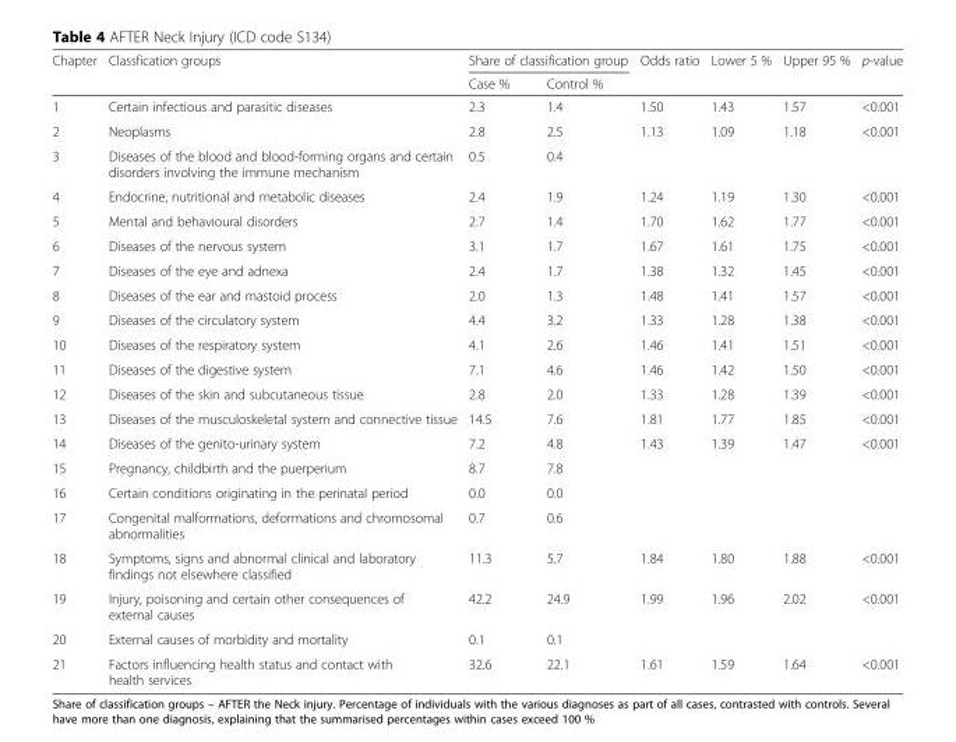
<table><thead><tr><td rowspan="2">Chapter</td><td rowspan="2">Classfication groups</td><td colspan="2">Share of classification group</td><td rowspan="2">Odds ratio</td><td rowspan="2">Lower 5 %</td><td rowspan="2">Upper 95 %</td><td rowspan="2">p-value</td></tr><tr><td>Case %</td><td>Control %</td></tr></thead><tbody><tr><td>1</td><td>Certain infectious and parasitic diseases</td><td>2.3</td><td>1.4</td><td>1.50</td><td>1.43</td><td>1.57</td><td>&lt;0.001</td></tr><tr><td>2</td><td>Neoplasms</td><td>2.8</td><td>2.5</td><td>1.13</td><td>1.09</td><td>1.18</td><td>&lt;0.001</td></tr><tr><td>3</td><td>Diseases of the blood and blood-forming organs and certain disorders involving the immune mechanism</td><td>0.5</td><td>0.4</td><td></td><td></td><td></td><td></td></tr><tr><td>4</td><td>Endocrine, nutritional and metabolic diseases</td><td>2.4</td><td>1.9</td><td>1.24</td><td>1.19</td><td>1.30</td><td>&lt;0.001</td></tr><tr><td>5</td><td>Mental and behavioural disorders</td><td>2.7</td><td>1.4</td><td>1.70</td><td>1.62</td><td>1.77</td><td>&lt;0.001</td></tr><tr><td>6</td><td>Diseases of the nervous system</td><td>3.1</td><td>1.7</td><td>1.67</td><td>1.61</td><td>1.75</td><td>&lt;0.001</td></tr><tr><td>7</td><td>Diseases of the eye and adnexa</td><td>2.4</td><td>1.7</td><td>1.38</td><td>1.32</td><td>1.45</td><td>&lt;0.001</td></tr><tr><td>8</td><td>Diseases of the ear and mastoid process</td><td>2.0</td><td>1.3</td><td>1.48</td><td>1.41</td><td>1.57</td><td>&lt;0.001</td></tr><tr><td>9</td><td>Diseases of the circulatory system</td><td>4.4</td><td>3.2</td><td>1.33</td><td>1.28</td><td>1.38</td><td>&lt;0.001</td></tr><tr><td>10</td><td>Diseases of the respiratory system</td><td>4.1</td><td>2.6</td><td>1.46</td><td>1.41</td><td>1.51</td><td>&lt;0.001</td></tr><tr><td>11</td><td>Diseases of the digestive system</td><td>7.1</td><td>4.6</td><td>1.46</td><td>1.42</td><td>1.50</td><td>&lt;0.001</td></tr><tr><td>12</td><td>Diseases of the skin and subcutaneous tissue</td><td>2.8</td><td>2.0</td><td>1.33</td><td>1.28</td><td>1.39</td><td>&lt;0.001</td></tr><tr><td>13</td><td>Diseases of the musculoskeletal system and connective tissue</td><td>14.5</td><td>7.6</td><td>1.81</td><td>1.77</td><td>1.85</td><td>&lt;0.001</td></tr><tr><td>14</td><td>Diseases of the genito-urinary system</td><td>7.2</td><td>4.8</td><td>1.43</td><td>1.39</td><td>1.47</td><td>&lt;0.001</td></tr><tr><td>15</td><td>Pregnancy, childbirth and the puerperium</td><td>8.7</td><td>7.8</td><td></td><td></td><td></td><td></td></tr><tr><td>16</td><td>Certain conditions originating in the perinatal period</td><td>0.0</td><td>0.0</td><td></td><td></td><td></td><td></td></tr><tr><td>17</td><td>Congenital malformations, deformations and chromosomal abnormalities</td><td>0.7</td><td>0.6</td><td></td><td></td><td></td><td></td></tr><tr><td>18</td><td>Symptoms, signs and abnormal clinical and laboratory findings not elsewhere classified</td><td>11.3</td><td>5.7</td><td>1.84</td><td>1.80</td><td>1.88</td><td>&lt;0.001</td></tr><tr><td>19</td><td>Injury, poisoning and certain other consequences of external causes</td><td>42.2</td><td>24.9</td><td>1.99</td><td>1.96</td><td>2.02</td><td>&lt;0.001</td></tr><tr><td>20</td><td>External causes of morbidity and mortality</td><td>0.1</td><td>0.1</td><td></td><td></td><td></td><td></td></tr><tr><td>21</td><td>Factors influencing health status and contact with health services</td><td>32.6</td><td>22.1</td><td>1.61</td><td>1.59</td><td>1.64</td><td>&lt;0.001</td></tr></tbody></table>